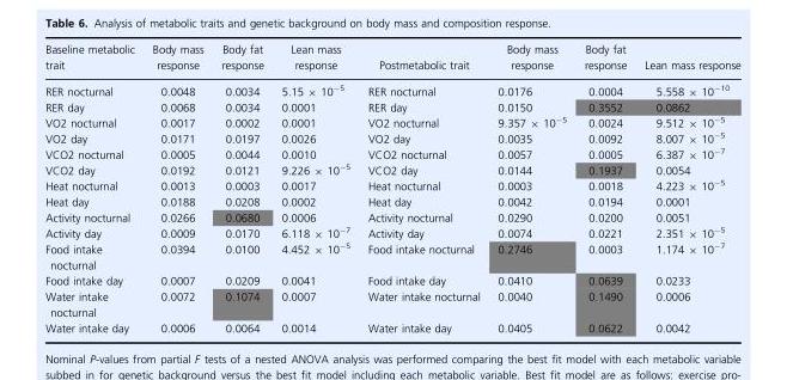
<table><thead><tr><td>Baseline metabolic trait</td><td>Body mass response</td><td>Body fat response</td><td>Lean mass response</td><td>Postmetabolic trait</td><td>Body mass response</td><td>Body fat response</td><td>Lean mass response</td></tr></thead><tbody><tr><td>RER nocturnal</td><td>0.0048</td><td>0.0034</td><td>5.15 × 10<sup>−5</sup></td><td>RER nocturnal</td><td>0.0176</td><td>0.0004</td><td>5.558 × 10<sup>−10</sup></td></tr><tr><td>RER day</td><td>0.0068</td><td>0.0034</td><td>0.0001</td><td>RER day</td><td>0.0150</td><td>0.3552</td><td>0.0862</td></tr><tr><td>VO2 nocturnal</td><td>0.0017</td><td>0.0002</td><td>0.0001</td><td>VO2 nocturnal</td><td>9.357 × 10<sup>−5</sup></td><td>0.0024</td><td>9.512 × 10<sup>−5</sup></td></tr><tr><td>VO2 day</td><td>0.0171</td><td>0.0197</td><td>0.0026</td><td>VO2 day</td><td>0.0035</td><td>0.0092</td><td>8.007 × 10<sup>−5</sup></td></tr><tr><td>VCO2 nocturnal</td><td>0.0005</td><td>0.0044</td><td>0.0010</td><td>VCO2 nocturnal</td><td>0.0057</td><td>0.0005</td><td>6.387 × 10<sup>−7</sup></td></tr><tr><td>VCO2 day</td><td>0.0192</td><td>0.0121</td><td>9.226 × 10<sup>−5</sup></td><td>VCO2 day</td><td>0.0144</td><td>0.1937</td><td>0.0054</td></tr><tr><td>Heat nocturnal</td><td>0.0013</td><td>0.0003</td><td>0.0017</td><td>Heat nocturnal</td><td>0.0003</td><td>0.0018</td><td>4.223 × 10<sup>−5</sup></td></tr><tr><td>Heat day</td><td>0.0188</td><td>0.0208</td><td>0.0002</td><td>Heat day</td><td>0.0042</td><td>0.0194</td><td>0.0001</td></tr><tr><td>Activity nocturnal</td><td>0.0266</td><td>0.0680</td><td>0.0006</td><td>Activity nocturnal</td><td>0.0290</td><td>0.0200</td><td>0.0051</td></tr><tr><td>Activity day</td><td>0.0009</td><td>0.0170</td><td>6.118 × 10<sup>−7</sup></td><td>Activity day</td><td>0.0074</td><td>0.0221</td><td>2.351 × 10<sup>−5</sup></td></tr><tr><td>Food intake nocturnal</td><td>0.0394</td><td>0.0100</td><td>4.452 × 10<sup>−5</sup></td><td>Food intake nocturnal</td><td>0.2746</td><td>0.0003</td><td>1.174 × 10<sup>−7</sup></td></tr><tr><td>Food intake day</td><td>0.0007</td><td>0.0209</td><td>0.0041</td><td>Food intake day</td><td>0.0410</td><td>0.0639</td><td>0.0233</td></tr><tr><td>Water intake nocturnal</td><td>0.0072</td><td>0.1074</td><td>0.0007</td><td>Water intake nocturnal</td><td>0.0040</td><td>0.1490</td><td>0.0006</td></tr><tr><td>Water intake day</td><td>0.0006</td><td>0.0064</td><td>0.0014</td><td>Water intake day</td><td>0.0405</td><td>0.0622</td><td>0.0042</td></tr></tbody></table>